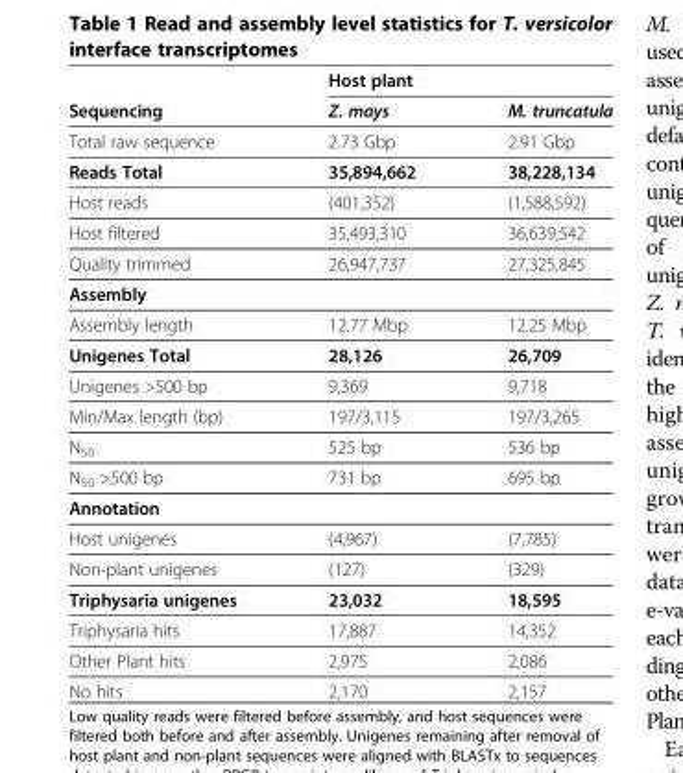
<table><thead><tr><td rowspan="2">Sequencing</td><td colspan="2">Host plant</td></tr><tr><td>Z. mays</td><td>M. truncatula</td></tr></thead><tbody><tr><td>Total raw sequence</td><td>2.73 Gbp</td><td>2.91 Gbp</td></tr><tr><td>Reads Total</td><td>35,894,662</td><td>38,228,134</td></tr><tr><td>Host reads</td><td>(401,352)</td><td>(1,588,592)</td></tr><tr><td>Host filtered</td><td>35,493,310</td><td>36,639,542</td></tr><tr><td>Quality trimmed</td><td>26,947,737</td><td>27,325,845</td></tr><tr><td colspan="3">Assembly</td></tr><tr><td>Assembly length</td><td>12.77 Mbp</td><td>12.25 Mbp</td></tr><tr><td>Unigenes Total</td><td>28,126</td><td>26,709</td></tr><tr><td>Unigenes &gt;500 bp</td><td>9,369</td><td>9,718</td></tr><tr><td>Min/Max length (bp)</td><td>197/3,115</td><td>197/3,265</td></tr><tr><td>N<sub>50</sub></td><td>525 bp</td><td>536 bp</td></tr><tr><td>N<sub>50</sub> &gt;500 bp</td><td>731 bp</td><td>695 bp</td></tr><tr><td colspan="3">Annotation</td></tr><tr><td>Host unigenes</td><td>(4,967)</td><td>(7,785)</td></tr><tr><td>Non-plant unigenes</td><td>(127)</td><td>(329)</td></tr><tr><td>Triphysaria unigenes</td><td>23,032</td><td>18,595</td></tr><tr><td>Triphysaria hits</td><td>17,887</td><td>14,352</td></tr><tr><td>Other Plant hits</td><td>2,975</td><td>2,086</td></tr><tr><td>No hits</td><td>2,170</td><td>2,157</td></tr></tbody></table>